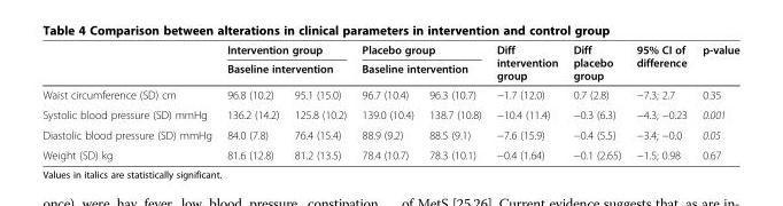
<table><thead><tr><td rowspan="3">Waist circumference (SD) cm</td><td rowspan="2" colspan="2">Intervention group Baseline intervention</td><td rowspan="2" colspan="2">Placebo group Baseline intervention</td><td rowspan="3">Diff intervention group −1.7 (12.0)</td><td rowspan="3">Diff placebo group 0.7 (2.8)</td><td rowspan="3">95% CI of difference −7.3; 2.7</td><td rowspan="3">p-value 0.35</td></tr><tr></tr><tr><td>96.8 (10.2)</td><td>95.1 (15.0)</td><td>96.7 (10.4)</td><td>96.3 (10.7)</td></tr></thead><tbody><tr><td>Systolic blood pressure (SD) mmHg</td><td>136.2 (14.2)</td><td>125.8 (10.2)</td><td>139.0 (10.4)</td><td>138.7 (10.8)</td><td>−10.4 (11.4)</td><td>−0.3 (6.3)</td><td>−4.3; −0.23</td><td>0.001</td></tr><tr><td>Diastolic blood pressure (SD) mmHg</td><td>84.0 (7.8)</td><td>76.4 (15.4)</td><td>88.9 (9.2)</td><td>88.5 (9.1)</td><td>−7.6 (15.9)</td><td>−0.4 (5.5)</td><td>−3.4; −0.0</td><td>0.05</td></tr><tr><td>Weight (SD) kg</td><td>81.6 (12.8)</td><td>81.2 (13.5)</td><td>78.4 (10.7)</td><td>78.3 (10.1)</td><td>−0.4 (1.64)</td><td>−0.1 (2.65)</td><td>−1.5; 0.98</td><td>0.67</td></tr></tbody></table>